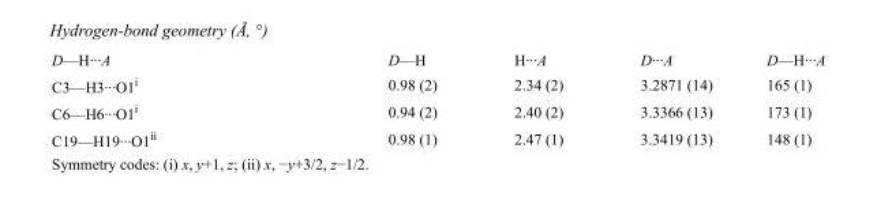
<table><tbody><tr><td>D—H···A</td><td>D—H</td><td>H···A</td><td>D···A</td><td>D—H···A</td></tr><tr><td>C3—H3···O1<sup>i</sup></td><td>0.98 (2)</td><td>2.34 (2)</td><td>3.2871 (14)</td><td>165 (1)</td></tr><tr><td>C6—H6···O1<sup>i</sup></td><td>0.94 (2)</td><td>2.40 (2)</td><td>3.3366 (13)</td><td>173 (1)</td></tr><tr><td>C19—H19···O1<sup>ii</sup></td><td>0.98 (1)</td><td>2.47 (1)</td><td>3.3419 (13)</td><td>148 (1)</td></tr></tbody></table>